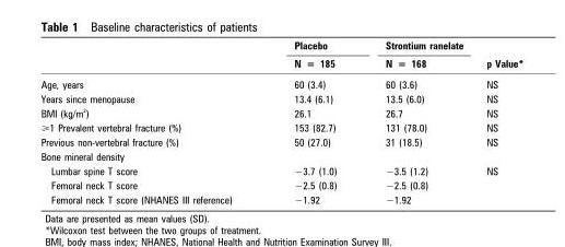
<table><thead><tr><td rowspan="2"></td><td rowspan="2">Placebo N = 185</td><td rowspan="2">Strontium ranelate N = 168</td><td rowspan="2">p Value*</td></tr><tr></tr></thead><tbody><tr><td>Age, years</td><td>60 (3.4)</td><td>60 (3.6)</td><td>NS</td></tr><tr><td>Years since menopause</td><td>13.4 (6.1)</td><td>13.5 (6.0)</td><td>NS</td></tr><tr><td>BMI (kg/m <sup>2</sup>)</td><td>26.1</td><td>26.7</td><td>NS</td></tr><tr><td>&gt;1 Prevalent vertebral fracture (%)</td><td>153 (82.7)</td><td>131 (78.0)</td><td>NS</td></tr><tr><td>Previous non-vertebral fracture (%)</td><td>50 (27.0)</td><td>31 (18.5)</td><td>NS</td></tr><tr><td colspan="4">Bone mineral density</td></tr><tr><td>Lumbar spine T score</td><td>−3.7 (1.0)</td><td>−3.5 (1.2)</td><td rowspan="3">NS</td></tr><tr><td>Femoral neck T score</td><td>−2.5 (0.8)</td><td>−2.5 (0.8)</td></tr><tr><td>Femoral neck T score (NHANES III reference)</td><td>−1.92</td><td>−1.92</td></tr></tbody></table>